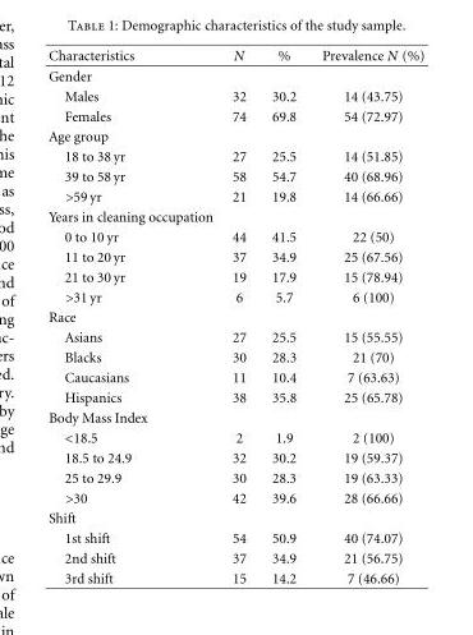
<table><thead><tr><td>Characteristics</td><td>N</td><td>%</td><td>Prevalence N (%)</td></tr></thead><tbody><tr><td colspan="4">Gender</td></tr><tr><td>Males</td><td>32</td><td>30.2</td><td>14 (43.75)</td></tr><tr><td>Females</td><td>74</td><td>69.8</td><td>54 (72.97)</td></tr><tr><td colspan="4">Age group</td></tr><tr><td>18 to 38 yr</td><td>27</td><td>25.5</td><td>14 (51.85)</td></tr><tr><td>39 to 58 yr</td><td>58</td><td>54.7</td><td>40 (68.96)</td></tr><tr><td>&gt;59 yr</td><td>21</td><td>19.8</td><td>14 (66.66)</td></tr><tr><td colspan="4">Years in cleaning occupation</td></tr><tr><td>0 to 10 yr</td><td>44</td><td>41.5</td><td>22 (50)</td></tr><tr><td>11 to 20 yr</td><td>37</td><td>34.9</td><td>25 (67.56)</td></tr><tr><td>21 to 30 yr</td><td>19</td><td>17.9</td><td>15 (78.94)</td></tr><tr><td>&gt;31 yr</td><td>6</td><td>5.7</td><td>6 (100)</td></tr><tr><td colspan="4">Race</td></tr><tr><td>Asians</td><td>27</td><td>25.5</td><td>15 (55.55)</td></tr><tr><td>Blacks</td><td>30</td><td>28.3</td><td>21 (70)</td></tr><tr><td>Caucasians</td><td>11</td><td>10.4</td><td>7 (63.63)</td></tr><tr><td>Hispanics</td><td>38</td><td>35.8</td><td>25 (65.78)</td></tr><tr><td colspan="4">Body Mass Index</td></tr><tr><td>&lt;18.5</td><td>2</td><td>1.9</td><td>2 (100)</td></tr><tr><td>18.5 to 24.9</td><td>32</td><td>30.2</td><td>19 (59.37)</td></tr><tr><td>25 to 29.9</td><td>30</td><td>28.3</td><td>19 (63.33)</td></tr><tr><td>&gt;30</td><td>42</td><td>39.6</td><td>28 (66.66)</td></tr><tr><td colspan="4">Shift</td></tr><tr><td>1st shift</td><td>54</td><td>50.9</td><td>40 (74.07)</td></tr><tr><td>2nd shift</td><td>37</td><td>34.9</td><td>21 (56.75)</td></tr><tr><td>3rd shift</td><td>15</td><td>14.2</td><td>7 (46.66)</td></tr></tbody></table>